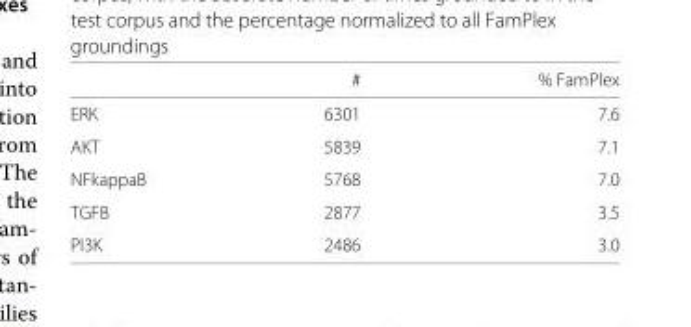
<table><thead><tr><td></td><td>#</td><td>% FamPlex</td></tr></thead><tbody><tr><td>ERK</td><td>6301</td><td>7.6</td></tr><tr><td>AKT</td><td>5839</td><td>7.1</td></tr><tr><td>NFkappaB</td><td>5768</td><td>7.0</td></tr><tr><td>TGFB</td><td>2877</td><td>3.5</td></tr><tr><td>PI3K</td><td>2486</td><td>3.0</td></tr></tbody></table>